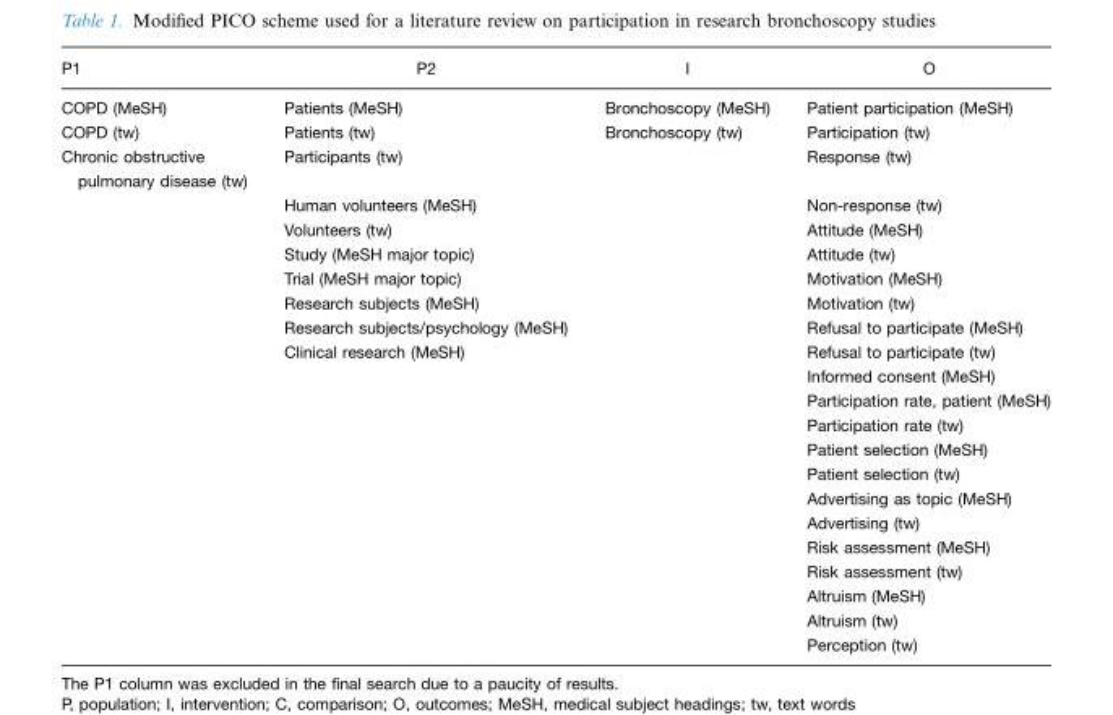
<table><thead><tr><td>P1</td><td>P2</td><td>I</td><td>O</td></tr></thead><tbody><tr><td>COPD (MeSH)</td><td>Patients (MeSH)</td><td>Bronchoscopy (MeSH)</td><td>Patient participation (MeSH)</td></tr><tr><td>COPD (tw)</td><td>Patients (tw)</td><td>Bronchoscopy (tw)</td><td>Participation (tw)</td></tr><tr><td rowspan="20">Chronic obstructive pulmonary disease (tw)</td><td>Participants (tw)</td><td></td><td>Response (tw)</td></tr><tr><td>Human volunteers (MeSH)</td><td></td><td>Non-response (tw)</td></tr><tr><td>Volunteers (tw)</td><td></td><td>Attitude (MeSH)</td></tr><tr><td>Study (MeSH major topic)</td><td></td><td>Attitude (tw)</td></tr><tr><td>Trial (MeSH major topic)</td><td></td><td>Motivation (MeSH)</td></tr><tr><td>Research subjects (MeSH)</td><td></td><td>Motivation (tw)</td></tr><tr><td>Research subjects/psychology (MeSH)</td><td></td><td>Refusal to participate (MeSH)</td></tr><tr><td>Clinical research (MeSH)</td><td></td><td>Refusal to participate (tw)</td></tr><tr><td></td><td></td><td>Informed consent (MeSH)</td></tr><tr><td></td><td></td><td>Participation rate, patient (MeSH)</td></tr><tr><td></td><td></td><td>Participation rate (tw)</td></tr><tr><td></td><td></td><td>Patient selection (MeSH)</td></tr><tr><td></td><td></td><td>Patient selection (tw)</td></tr><tr><td></td><td></td><td>Advertising as topic (MeSH)</td></tr><tr><td></td><td></td><td>Advertising (tw)</td></tr><tr><td></td><td></td><td>Risk assessment (MeSH)</td></tr><tr><td></td><td></td><td>Risk assessment (tw)</td></tr><tr><td></td><td></td><td>Altruism (MeSH)</td></tr><tr><td></td><td></td><td>Altruism (tw)</td></tr><tr><td></td><td></td><td>Perception (tw)</td></tr></tbody></table>